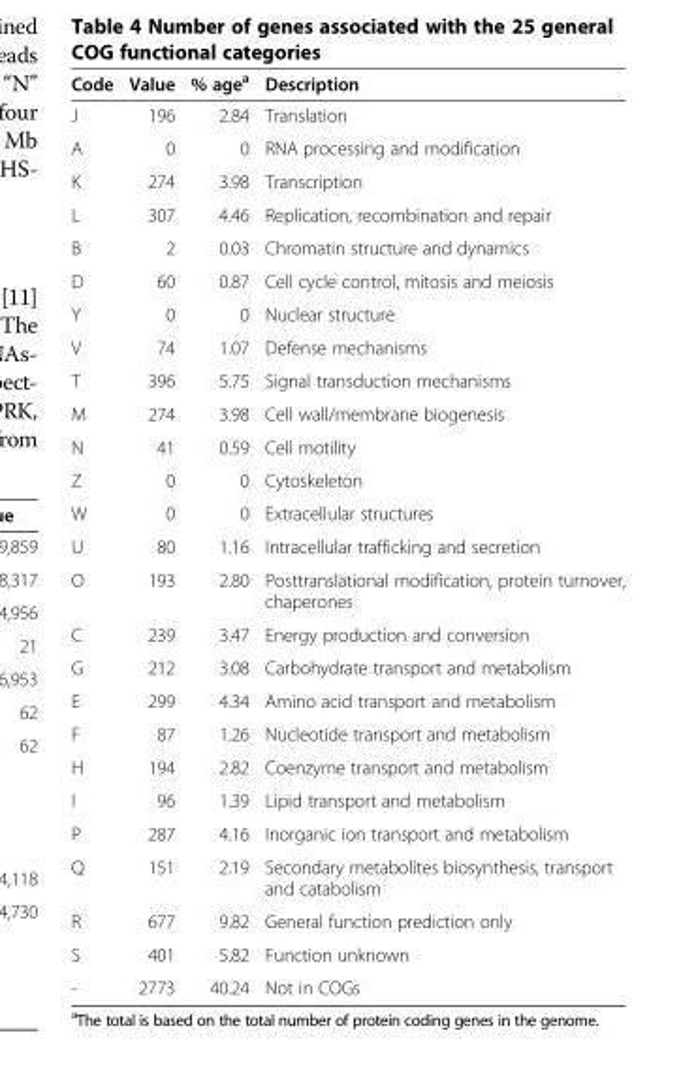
<table><thead><tr><td>Code</td><td>Value</td><td>% age<sup>a</sup></td><td>Description</td></tr></thead><tbody><tr><td>J</td><td>196</td><td>2.84</td><td>Translation</td></tr><tr><td>A</td><td>0</td><td>0</td><td>RNA processing and modification</td></tr><tr><td>K</td><td>274</td><td>3.98</td><td>Transcription</td></tr><tr><td>L</td><td>307</td><td>4.46</td><td>Replication, recombination and repair</td></tr><tr><td>B</td><td>2</td><td>0.03</td><td>Chromatin structure and dynamics</td></tr><tr><td>D</td><td>60</td><td>0.87</td><td>Cell cycle control, mitosis and meiosis</td></tr><tr><td>Y</td><td>0</td><td>0</td><td>Nuclear structure</td></tr><tr><td>V</td><td>74</td><td>1.07</td><td>Defense mechanisms</td></tr><tr><td>T</td><td>396</td><td>5.75</td><td>Signal transduction mechanisms</td></tr><tr><td>M</td><td>274</td><td>3.98</td><td>Cell wall/membrane biogenesis</td></tr><tr><td>N</td><td>41</td><td>0.59</td><td>Cell motility</td></tr><tr><td>Z</td><td>0</td><td>0</td><td>Cytoskeleton</td></tr><tr><td>W</td><td>0</td><td>0</td><td>Extracellular structures</td></tr><tr><td>U</td><td>80</td><td>1.16</td><td>Intracellular trafficking and secretion</td></tr><tr><td>O</td><td>193</td><td>2.80</td><td>Posttranslational modification, protein turnover, chaperones</td></tr><tr><td>C</td><td>239</td><td>3.47</td><td>Energy production and conversion</td></tr><tr><td>G</td><td>212</td><td>3.08</td><td>Carbohydrate transport and metabolism</td></tr><tr><td>E</td><td>299</td><td>4.34</td><td>Amino acid transport and metabolism</td></tr><tr><td>F</td><td>87</td><td>1.26</td><td>Nucleotide transport and metabolism</td></tr><tr><td>H</td><td>194</td><td>2.82</td><td>Coenzyme transport and metabolism</td></tr><tr><td>I</td><td>96</td><td>1.39</td><td>Lipid transport and metabolism</td></tr><tr><td>P</td><td>287</td><td>4.16</td><td>Inorganic ion transport and metabolism</td></tr><tr><td>Q</td><td>151</td><td>2.19</td><td>Secondary metabolites biosynthesis, transport and catabolism</td></tr><tr><td>R</td><td>677</td><td>9.82</td><td>General function prediction only</td></tr><tr><td>S</td><td>401</td><td>5.82</td><td>Function unknown</td></tr><tr><td>-</td><td>2773</td><td>40.24</td><td>Not in COGs</td></tr></tbody></table>